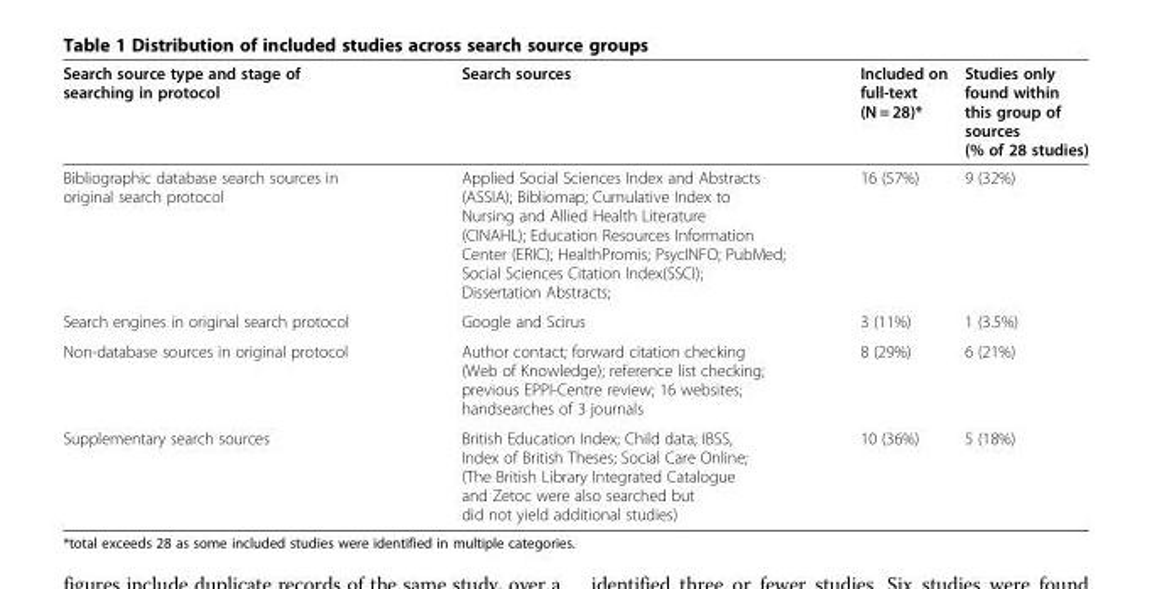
<table><thead><tr><td>Search source type and stage of searching in protocol</td><td>Search sources</td><td>Included on full-text (N = 28)*</td><td>Studies only found within this group of sources (% of 28 studies)</td></tr></thead><tbody><tr><td>Bibliographic database search sources in original search protocol</td><td>Applied Social Sciences Index and Abstracts (ASSIA); Bibliomap; Cumulative Index to Nursing and Allied Health Literature (CINAHL); Education Resources Information Center (ERIC); HealthPromis; PsycINFO; PubMed; Social Sciences Citation Index(SSCI); Dissertation Abstracts;</td><td>16 (57%)</td><td>9 (32%)</td></tr><tr><td>Search engines in original search protocol</td><td>Google and Scirus</td><td>3 (11%)</td><td>1 (3.5%)</td></tr><tr><td>Non-database sources in original protocol</td><td>Author contact; forward citation checking (Web of Knowledge); reference list checking; previous EPPI-Centre review; 16 websites; handsearches of 3 journals</td><td>8 (29%)</td><td>6 (21%)</td></tr><tr><td>Supplementary search sources</td><td>British Education Index; Child data; IBSS, Index of British Theses; Social Care Online; (The British Library Integrated Catalogue and Zetoc were also searched but did not yield additional studies)</td><td>10 (36%)</td><td>5 (18%)</td></tr></tbody></table>